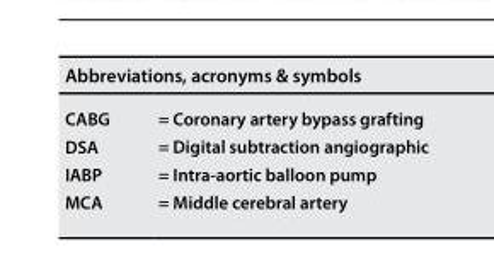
<table><thead><tr><td colspan="2">Abbreviations, acronyms &amp; symbols</td></tr><tr><td>CABG</td><td>= Coronary artery bypass grafting</td></tr></thead><tbody><tr><td>DSA</td><td>= Digital subtraction angiographic</td></tr><tr><td>IABP</td><td>= Intra-aortic balloon pump</td></tr><tr><td>MCA</td><td>= Middle cerebral artery</td></tr></tbody></table>